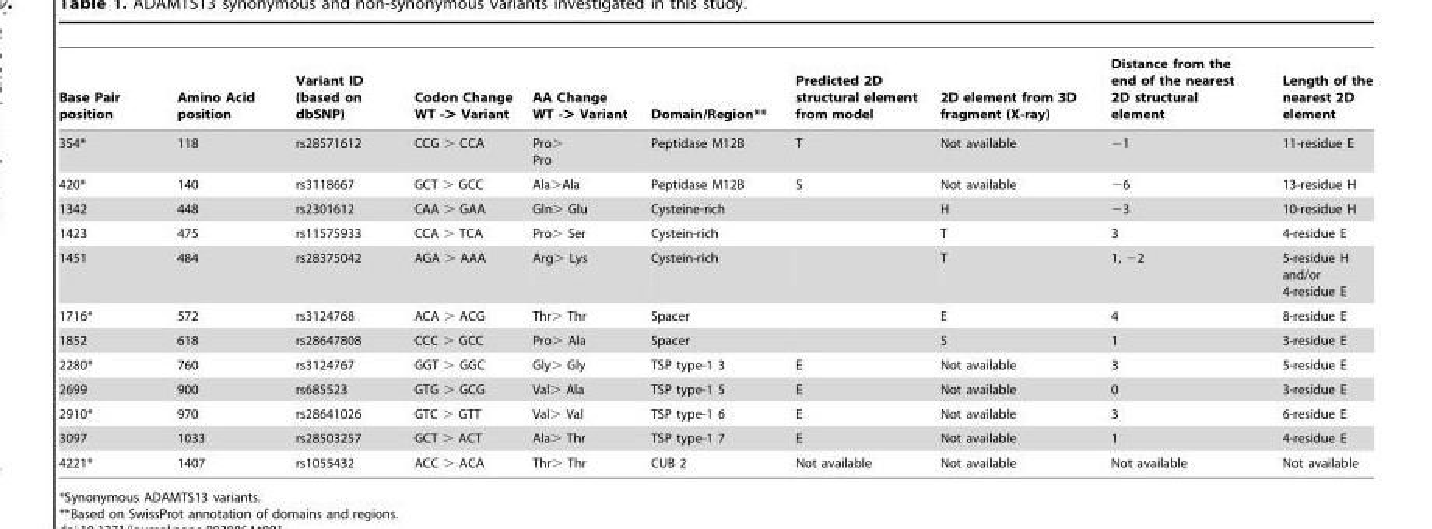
<table><thead><tr><td>Base Pair position</td><td>Amino Acid position</td><td>Variant ID (based on dbSNP)</td><td>Codon Change WT -&gt; Variant</td><td>AA Change WT -&gt; Variant</td><td>Domain/Region**</td><td>Predicted 2D structural element from model</td><td>2D element from 3D fragment (X-ray)</td><td>Distance from the end of the nearest 2D structural element</td><td>Length of the nearest 2D element</td></tr></thead><tbody><tr><td>354*</td><td>118</td><td>rs28571612</td><td>CCG &gt; CCA</td><td>Pro&gt; Pro</td><td>Peptidase M12B</td><td>T</td><td>Not available</td><td>−1</td><td>11-residue E</td></tr><tr><td>420*</td><td>140</td><td>rs3118667</td><td>GCT &gt; GCC</td><td>Ala&gt;Ala</td><td>Peptidase M12B</td><td>S</td><td>Not available</td><td>−6</td><td>13-residue H</td></tr><tr><td>1342</td><td>448</td><td>rs2301612</td><td>CAA &gt; GAA</td><td>Gln&gt; Glu</td><td>Cysteine-rich</td><td></td><td>H</td><td>−3</td><td>10-residue H</td></tr><tr><td>1423</td><td>475</td><td>rs11575933</td><td>CCA &gt; TCA</td><td>Pro&gt; Ser</td><td>Cystein-rich</td><td></td><td>T</td><td>3</td><td>4-residue E</td></tr><tr><td>1451</td><td>484</td><td>rs28375042</td><td>AGA &gt; AAA</td><td>Arg&gt; Lys</td><td>Cystein-rich</td><td></td><td>T</td><td>1, −2</td><td>5-residue H and/or 4-residue E</td></tr><tr><td>1716*</td><td>572</td><td>rs3124768</td><td>ACA &gt; ACG</td><td>Thr&gt; Thr</td><td>Spacer</td><td></td><td>E</td><td>4</td><td>8-residue E</td></tr><tr><td>1852</td><td>618</td><td>rs28647808</td><td>CCC &gt; GCC</td><td>Pro&gt; Ala</td><td>Spacer</td><td></td><td>S</td><td>1</td><td>3-residue E</td></tr><tr><td>2280*</td><td>760</td><td>rs3124767</td><td>GGT &gt; GGC</td><td>Gly&gt; Gly</td><td>TSP type-1 3</td><td>E</td><td>Not available</td><td>3</td><td>5-residue E</td></tr><tr><td>2699</td><td>900</td><td>rs685523</td><td>GTG &gt; GCG</td><td>Val&gt; Ala</td><td>TSP type-1 5</td><td>E</td><td>Not available</td><td>0</td><td>3-residue E</td></tr><tr><td>2910*</td><td>970</td><td>rs28641026</td><td>GTC &gt; GTT</td><td>Val&gt; Val</td><td>TSP type-1 6</td><td>E</td><td>Not available</td><td>3</td><td>6-residue E</td></tr><tr><td>3097</td><td>1033</td><td>rs28503257</td><td>GCT &gt; ACT</td><td>Ala&gt; Thr</td><td>TSP type-1 7</td><td>E</td><td>Not available</td><td>1</td><td>4-residue E</td></tr><tr><td>4221*</td><td>1407</td><td>rs1055432</td><td>ACC &gt; ACA</td><td>Thr&gt; Thr</td><td>CUB 2</td><td>Not available</td><td>Not available</td><td>Not available</td><td>Not available</td></tr></tbody></table>